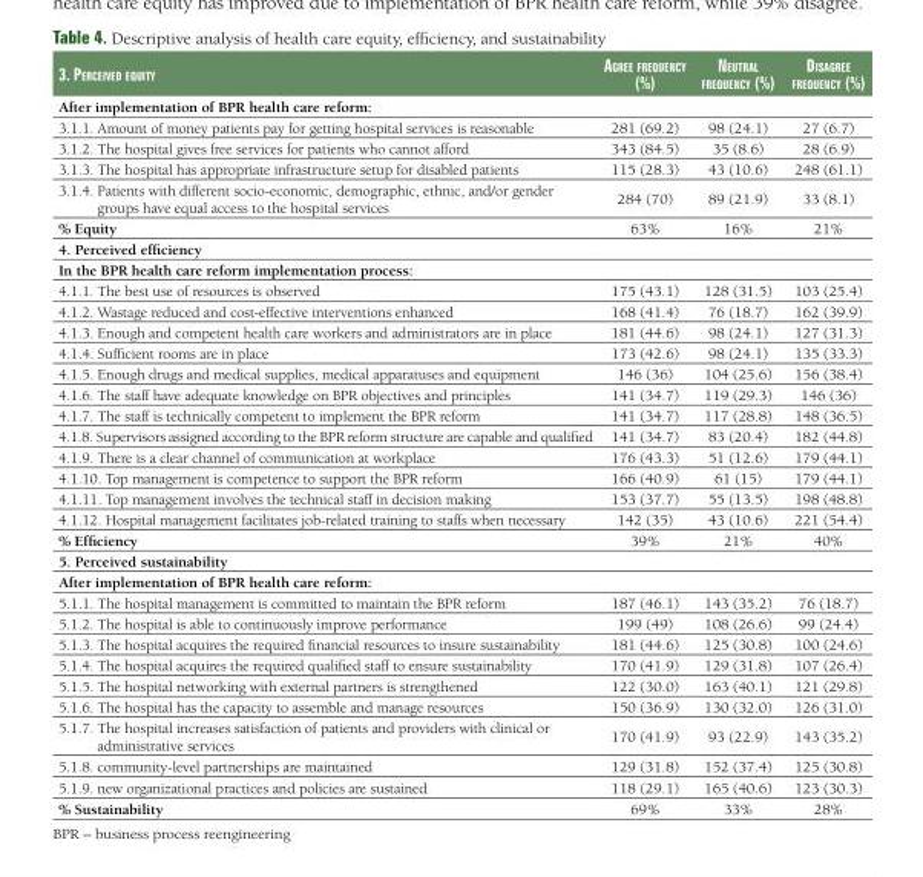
<table><thead><tr><td>3. PerCeIved equIty</td><td>agree frequenCy (%)</td><td>neutral frequenCy (%)</td><td>dIsagree frequenCy (%)</td></tr></thead><tbody><tr><td colspan="4">After implementation of BPR health care reform:</td></tr><tr><td>3.1.1. Amount of money patients pay for getting hospital services is reasonable</td><td>281 (69.2)</td><td>98 (24.1)</td><td>27 (6.7)</td></tr><tr><td>3.1.2. The hospital gives free services for patients who cannot afford</td><td>343 (84.5)</td><td>35 (8.6)</td><td>28 (6.9)</td></tr><tr><td>3.1.3. The hospital has appropriate infrastructure setup for disabled patients</td><td>115 (28.3)</td><td>43 (10.6)</td><td>248 (61.1)</td></tr><tr><td>3.1.4. Patients with different socio-economic, demographic, ethnic, and/or gender groups have equal access to the hospital services</td><td>284 (70)</td><td>89 (21.9)</td><td>33 (8.1)</td></tr><tr><td>% Equity</td><td>63%</td><td>16%</td><td>21%</td></tr><tr><td colspan="4">4. Perceived efficiency</td></tr><tr><td colspan="4">In the BPR health care reform implementation process:</td></tr><tr><td>4.1.1. The best use of resources is observed</td><td>175 (43.1)</td><td>128 (31.5)</td><td>103 (25.4)</td></tr><tr><td>4.1.2. Wastage reduced and cost-effective interventions enhanced</td><td>168 (41.4)</td><td>76 (18.7)</td><td>162 (39.9)</td></tr><tr><td>4.1.3. Enough and competent health care workers and administrators are in place</td><td>181 (44.6)</td><td>98 (24.1)</td><td>127 (31.3)</td></tr><tr><td>4.1.4. Sufficient rooms are in place</td><td>173 (42.6)</td><td>98 (24.1)</td><td>135 (33.3)</td></tr><tr><td>4.1.5. Enough drugs and medical supplies, medical apparatuses and equipment</td><td>146 (36)</td><td>104 (25.6)</td><td>156 (38.4)</td></tr><tr><td>4.1.6. The staff have adequate knowledge on BPR objectives and principles</td><td>141 (34.7)</td><td>119 (29.3)</td><td>146 (36)</td></tr><tr><td>4.1.7. The staff is technically competent to implement the BPR reform</td><td>141 (34.7)</td><td>117 (28.8)</td><td>148 (36.5)</td></tr><tr><td>4.1.8. Supervisors assigned according to the BPR reform structure are capable and qualified</td><td>141 (34.7)</td><td>83 (20.4)</td><td>182 (44.8)</td></tr><tr><td>4.1.9. There is a clear channel of communication at workplace</td><td>176 (43.3)</td><td>51 (12.6)</td><td>179 (44.1)</td></tr><tr><td>4.1.10. Top management is competence to support the BPR reform</td><td>166 (40.9)</td><td>61 (15)</td><td>179 (44.1)</td></tr><tr><td>4.1.11. Top management involves the technical staff in decision making</td><td>153 (37.7)</td><td>55 (13.5)</td><td>198 (48.8)</td></tr><tr><td>4.1.12. Hospital management facilitates job-related training to staffs when necessary</td><td>142 (35)</td><td>43 (10.6)</td><td>221 (54.4)</td></tr><tr><td>% Efficiency</td><td>39%</td><td>21%</td><td>40%</td></tr><tr><td colspan="4">5. Perceived sustainability</td></tr><tr><td colspan="4">After implementation of BPR health care reform:</td></tr><tr><td>5.1.1. The hospital management is committed to maintain the BPR reform</td><td>187 (46.1)</td><td>143 (35.2)</td><td>76 (18.7)</td></tr><tr><td>5.1.2. The hospital is able to continuously improve performance</td><td>199 (49)</td><td>108 (26.6)</td><td>99 (24.4)</td></tr><tr><td>5.1.3. The hospital acquires the required financial resources to insure sustainability</td><td>181 (44.6)</td><td>125 (30.8)</td><td>100 (24.6)</td></tr><tr><td>5.1.4. The hospital acquires the required qualified staff to ensure sustainability</td><td>170 (41.9)</td><td>129 (31.8)</td><td>107 (26.4)</td></tr><tr><td>5.1.5. The hospital networking with external partners is strengthened</td><td>122 (30.0)</td><td>163 (40.1)</td><td>121 (29.8)</td></tr><tr><td>5.1.6. The hospital has the capacity to assemble and manage resources</td><td>150 (36.9)</td><td>130 (32.0)</td><td>126 (31.0)</td></tr><tr><td>5.1.7. The hospital increases satisfaction of patients and providers with clinical or administrative services</td><td>170 (41.9)</td><td>93 (22.9)</td><td>143 (35.2)</td></tr><tr><td>5.1.8. community-level partnerships are maintained</td><td>129 (31.8)</td><td>152 (37.4)</td><td>125 (30.8)</td></tr><tr><td>5.1.9. new organizational practices and policies are sustained</td><td>118 (29.1)</td><td>165 (40.6)</td><td>123 (30.3)</td></tr><tr><td>% Sustainability</td><td>69%</td><td>33%</td><td>28%</td></tr></tbody></table>